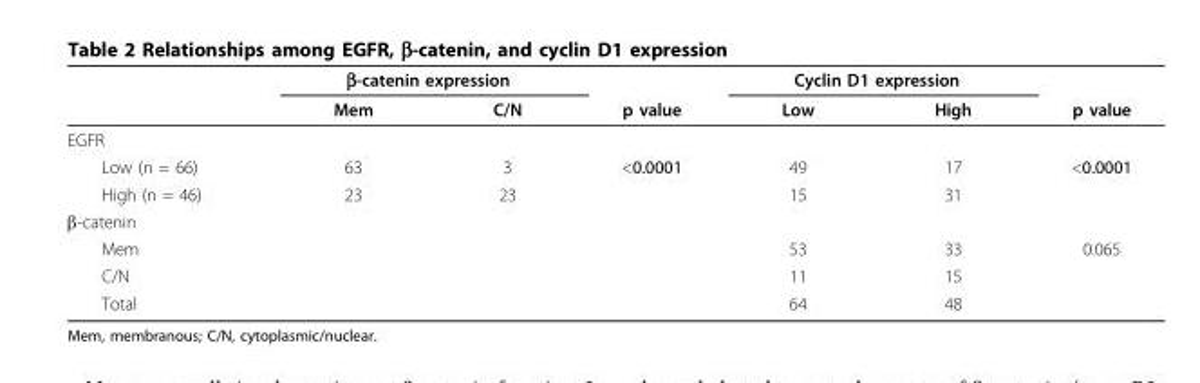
<table><thead><tr><td rowspan="2"></td><td colspan="2">β-catenin expression</td><td rowspan="2">p value</td><td colspan="2">Cyclin D1 expression</td><td rowspan="2">p value</td></tr><tr><td>Mem</td><td>C/N</td><td>Low</td><td>High</td></tr></thead><tbody><tr><td colspan="7">EGFR</td></tr><tr><td>Low (n = 66)</td><td>63</td><td>3</td><td>&lt;0.0001</td><td>49</td><td>17</td><td>&lt;0.0001</td></tr><tr><td>High (n = 46)</td><td>23</td><td>23</td><td></td><td>15</td><td>31</td><td></td></tr><tr><td colspan="7">β-catenin</td></tr><tr><td>Mem</td><td></td><td></td><td></td><td>53</td><td>33</td><td>0.065</td></tr><tr><td>C/N</td><td></td><td></td><td></td><td>11</td><td>15</td><td></td></tr><tr><td>Total</td><td></td><td></td><td></td><td>64</td><td>48</td><td></td></tr></tbody></table>